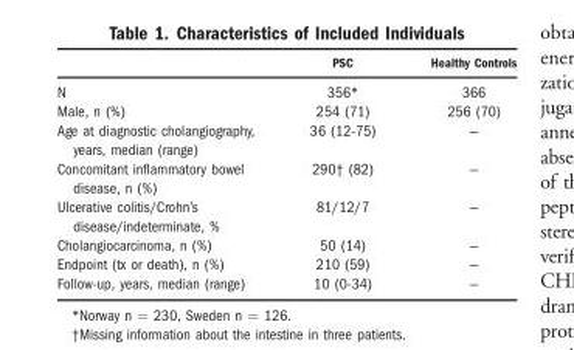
<table><thead><tr><td></td><td>PSC</td><td>Healthy Controls</td></tr></thead><tbody><tr><td>N</td><td>356*</td><td>366</td></tr><tr><td>Male, n (%)</td><td>254 (71)</td><td>256 (70)</td></tr><tr><td>Age at diagnostic cholangiography, years, median (range)</td><td>36 (12-75)</td><td>—</td></tr><tr><td>Concomitant inflammatory bowel disease, n (%)</td><td>290† (82)</td><td>—</td></tr><tr><td>Ulcerative colitis/Crohn’s disease/indeterminate, %</td><td>81/12/7</td><td>—</td></tr><tr><td>Cholangiocarcinoma, n (%)</td><td>50 (14)</td><td>—</td></tr><tr><td>Endpoint (tx or death), n (%)</td><td>210 (59)</td><td>—</td></tr><tr><td>Follow-up, years, median (range)</td><td>10 (0-34)</td><td>—</td></tr></tbody></table>